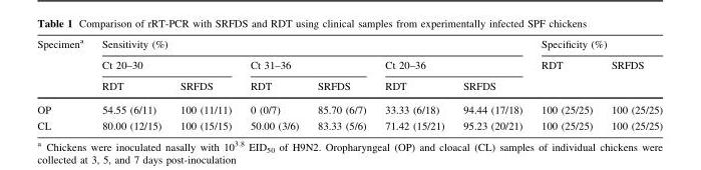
<table><thead><tr><td rowspan="3">Specimen<sup>a</sup></td><td colspan="6">Sensitivity (%)</td><td colspan="2">Specificity (%)</td></tr><tr><td colspan="2">Ct 20–30</td><td colspan="2">Ct 31–36</td><td colspan="2">Ct 20–36</td><td rowspan="2">RDT</td><td rowspan="2">SRFDS</td></tr><tr><td>RDT</td><td>SRFDS</td><td>RDT</td><td>SRFDS</td><td>RDT</td><td>SRFDS</td></tr></thead><tbody><tr><td>OP</td><td>54.55 (6/11)</td><td>100 (11/11)</td><td>0 (0/7)</td><td>85.70 (6/7)</td><td>33.33 (6/18)</td><td>94.44 (17/18)</td><td>100 (25/25)</td><td>100 (25/25)</td></tr><tr><td>CL</td><td>80.00 (12/15)</td><td>100 (15/15)</td><td>50.00 (3/6)</td><td>83.33 (5/6)</td><td>71.42 (15/21)</td><td>95.23 (20/21)</td><td>100 (25/25)</td><td>100 (25/25)</td></tr></tbody></table>